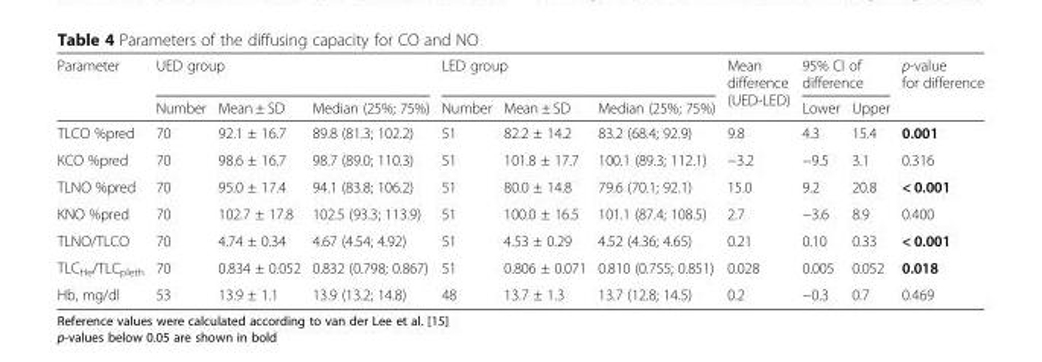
<table><thead><tr><td rowspan="2">Parameter</td><td colspan="3">UED group</td><td colspan="3">LED group</td><td rowspan="2">Mean difference (UED-LED)</td><td colspan="2">95% CI of difference</td><td rowspan="2">p-value for difference</td></tr><tr><td>Number</td><td>Mean ± SD</td><td>Median (25%; 75%)</td><td>Number</td><td>Mean ± SD</td><td>Median (25%; 75%)</td><td>Lower</td><td>Upper</td></tr></thead><tbody><tr><td>TLCO %pred</td><td>70</td><td>92.1 ± 16.7</td><td>89.8 (81.3; 102.2)</td><td>51</td><td>82.2 ± 14.2</td><td>83.2 (68.4; 92.9)</td><td>9.8</td><td>4.3</td><td>15.4</td><td>0.001</td></tr><tr><td>KCO %pred</td><td>70</td><td>98.6 ± 16.7</td><td>98.7 (89.0; 110.3)</td><td>51</td><td>101.8 ± 17.7</td><td>100.1 (89.3; 112.1)</td><td>−3.2</td><td>−9.5</td><td>3.1</td><td>0.316</td></tr><tr><td>TLNO %pred</td><td>70</td><td>95.0 ± 17.4</td><td>94.1 (83.8; 106.2)</td><td>51</td><td>80.0 ± 14.8</td><td>79.6 (70.1; 92.1)</td><td>15.0</td><td>9.2</td><td>20.8</td><td>&lt; 0.001</td></tr><tr><td>KNO %pred</td><td>70</td><td>102.7 ± 17.8</td><td>102.5 (93.3; 113.9)</td><td>51</td><td>100.0 ± 16.5</td><td>101.1 (87.4; 108.5)</td><td>2.7</td><td>−3.6</td><td>8.9</td><td>0.400</td></tr><tr><td>TLNO/TLCO</td><td>70</td><td>4.74 ± 0.34</td><td>4.67 (4.54; 4.92)</td><td>51</td><td>4.53 ± 0.29</td><td>4.52 (4.36; 4.65)</td><td>0.21</td><td>0.10</td><td>0.33</td><td>&lt; 0.001</td></tr><tr><td>TLC<sub>He</sub>/TLC<sub>pleth</sub></td><td>70</td><td>0.834 ± 0.052</td><td>0.832 (0.798; 0.867)</td><td>51</td><td>0.806 ± 0.071</td><td>0.810 (0.755; 0.851)</td><td>0.028</td><td>0.005</td><td>0.052</td><td>0.018</td></tr><tr><td>Hb, mg/dl</td><td>53</td><td>13.9 ± 1.1</td><td>13.9 (13.2; 14.8)</td><td>48</td><td>13.7 ± 1.3</td><td>13.7 (12.8; 14.5)</td><td>0.2</td><td>−0.3</td><td>0.7</td><td>0.469</td></tr></tbody></table>